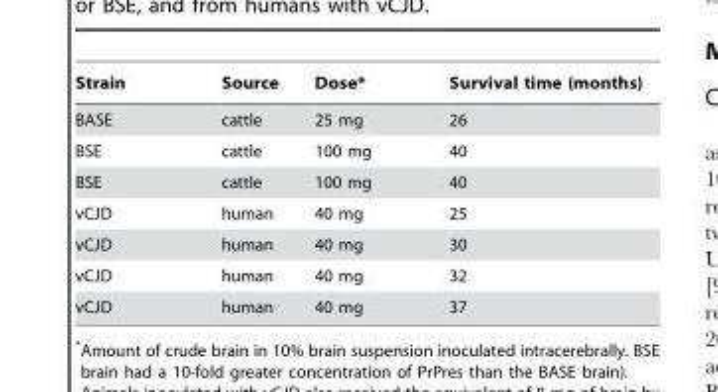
<table><thead><tr><td>Strain</td><td>Source</td><td>Dose*</td><td>Survival time (months)</td></tr></thead><tbody><tr><td>BASE</td><td>cattle</td><td>25 mg</td><td>26</td></tr><tr><td>BSE</td><td>cattle</td><td>100 mg</td><td>40</td></tr><tr><td>BSE</td><td>cattle</td><td>100 mg</td><td>40</td></tr><tr><td>vCJD</td><td>human</td><td>40 mg</td><td>25</td></tr><tr><td>vCJD</td><td>human</td><td>40 mg</td><td>30</td></tr><tr><td>vCJD</td><td>human</td><td>40 mg</td><td>32</td></tr><tr><td>vCJD</td><td>human</td><td>40 mg</td><td>37</td></tr></tbody></table>